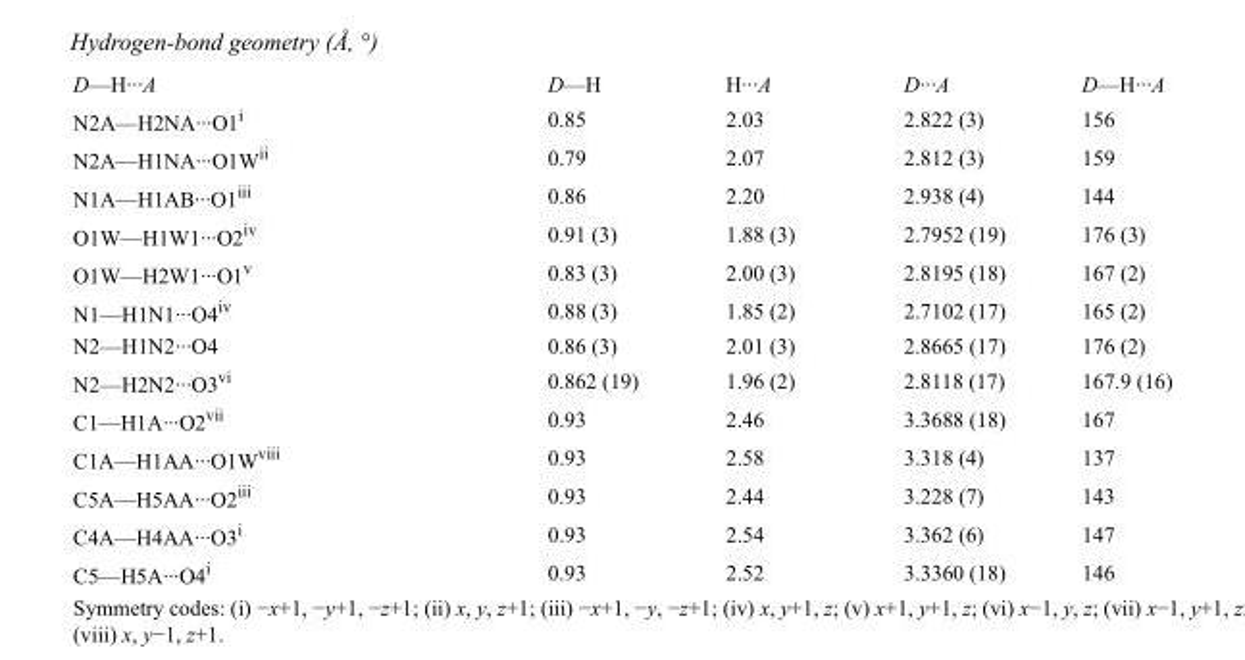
<table><tbody><tr><td>D—H···A</td><td>D—H</td><td>H···A</td><td>D···A</td><td>D—H···A</td></tr><tr><td>N2A—H2NA···O1<sup>i</sup></td><td>0.85</td><td>2.03</td><td>2.822 (3)</td><td>156</td></tr><tr><td>N2A—H1NA···O1W<sup>ii</sup></td><td>0.79</td><td>2.07</td><td>2.812 (3)</td><td>159</td></tr><tr><td>N1A—H1AB···O1<sup>iii</sup></td><td>0.86</td><td>2.20</td><td>2.938 (4)</td><td>144</td></tr><tr><td>O1W—H1W1···O2<sup>iv</sup></td><td>0.91 (3)</td><td>1.88 (3)</td><td>2.7952 (19)</td><td>176 (3)</td></tr><tr><td>O1W—H2W1···O1<sup>v</sup></td><td>0.83 (3)</td><td>2.00 (3)</td><td>2.8195 (18)</td><td>167 (2)</td></tr><tr><td>N1—H1N1···O4<sup>iv</sup></td><td>0.88 (3)</td><td>1.85 (2)</td><td>2.7102 (17)</td><td>165 (2)</td></tr><tr><td>N2—H1N2···O4</td><td>0.86 (3)</td><td>2.01 (3)</td><td>2.8665 (17)</td><td>176 (2)</td></tr><tr><td>N2—H2N2···O3<sup>vi</sup></td><td>0.862 (19)</td><td>1.96 (2)</td><td>2.8118 (17)</td><td>167.9 (16)</td></tr><tr><td>C1—H1A···O2<sup>vii</sup></td><td>0.93</td><td>2.46</td><td>3.3688 (18)</td><td>167</td></tr><tr><td>C1A—H1AA···O1W<sup>viii</sup></td><td>0.93</td><td>2.58</td><td>3.318 (4)</td><td>137</td></tr><tr><td>C5A—H5AA···O2<sup>iii</sup></td><td>0.93</td><td>2.44</td><td>3.228 (7)</td><td>143</td></tr><tr><td>C4A—H4AA···O3<sup>i</sup></td><td>0.93</td><td>2.54</td><td>3.362 (6)</td><td>147</td></tr><tr><td>C5—H5A···O4<sup>i</sup></td><td>0.93</td><td>2.52</td><td>3.3360 (18)</td><td>146</td></tr></tbody></table>